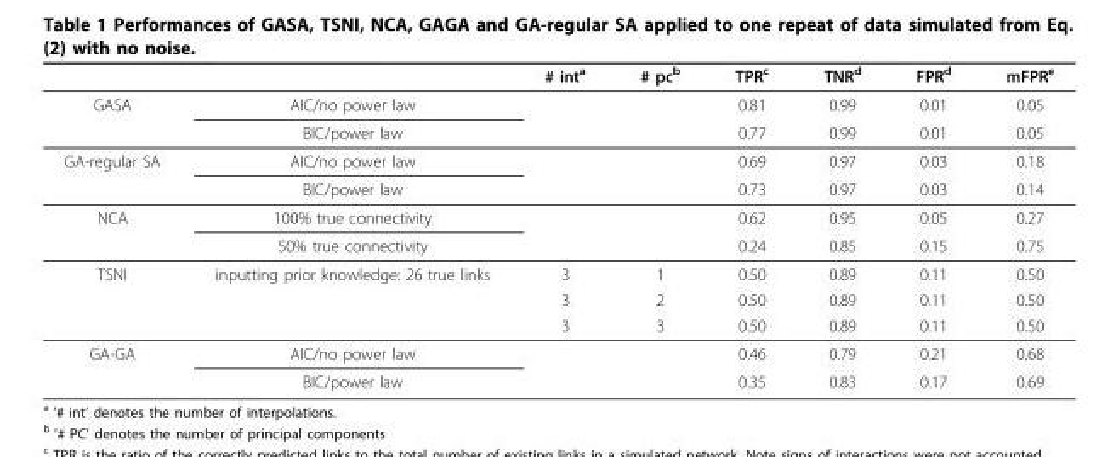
<table><thead><tr><td></td><td></td><td># int<sup>a</sup></td><td># pc<sup>b</sup></td><td>TPR<sup>c</sup></td><td>TNR<sup>d</sup></td><td>FPR<sup>d</sup></td><td>mFPR<sup>e</sup></td></tr></thead><tbody><tr><td rowspan="2">GASA</td><td>AIC/no power law</td><td></td><td></td><td>0.81</td><td>0.99</td><td>0.01</td><td>0.05</td></tr><tr><td>BIC/power law</td><td></td><td></td><td>0.77</td><td>0.99</td><td>0.01</td><td>0.05</td></tr><tr><td rowspan="2">GA-regular SA</td><td>AIC/no power law</td><td></td><td></td><td>0.69</td><td>0.97</td><td>0.03</td><td>0.18</td></tr><tr><td>BIC/power law</td><td></td><td></td><td>0.73</td><td>0.97</td><td>0.03</td><td>0.14</td></tr><tr><td rowspan="2">NCA</td><td>100% true connectivity</td><td></td><td></td><td>0.62</td><td>0.95</td><td>0.05</td><td>0.27</td></tr><tr><td>50% true connectivity</td><td></td><td></td><td>0.24</td><td>0.85</td><td>0.15</td><td>0.75</td></tr><tr><td rowspan="3">TSNI</td><td>inputting prior knowledge: 26 true links</td><td>3</td><td>1</td><td>0.50</td><td>0.89</td><td>0.11</td><td>0.50</td></tr><tr><td></td><td>3</td><td>2</td><td>0.50</td><td>0.89</td><td>0.11</td><td>0.50</td></tr><tr><td></td><td>3</td><td>3</td><td>0.50</td><td>0.89</td><td>0.11</td><td>0.50</td></tr><tr><td rowspan="2">GA-GA</td><td>AIC/no power law</td><td></td><td></td><td>0.46</td><td>0.79</td><td>0.21</td><td>0.68</td></tr><tr><td>BIC/power law</td><td></td><td></td><td>0.35</td><td>0.83</td><td>0.17</td><td>0.69</td></tr></tbody></table>